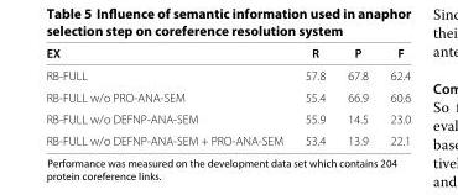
<table><thead><tr><td>EX</td><td>R</td><td>P</td><td>F</td></tr></thead><tbody><tr><td>RB-FULL</td><td>57.8</td><td>67.8</td><td>62.4</td></tr><tr><td>RB-FULL w/o PRO-ANA-SEM</td><td>55.4</td><td>66.9</td><td>60.6</td></tr><tr><td>RB-FULL w/o DEFNP-ANA-SEM</td><td>55.9</td><td>14.5</td><td>23.0</td></tr><tr><td>RB-FULL w/o DEFNP-ANA-SEM + PRO-ANA-SEM</td><td>53.4</td><td>13.9</td><td>22.1</td></tr></tbody></table>